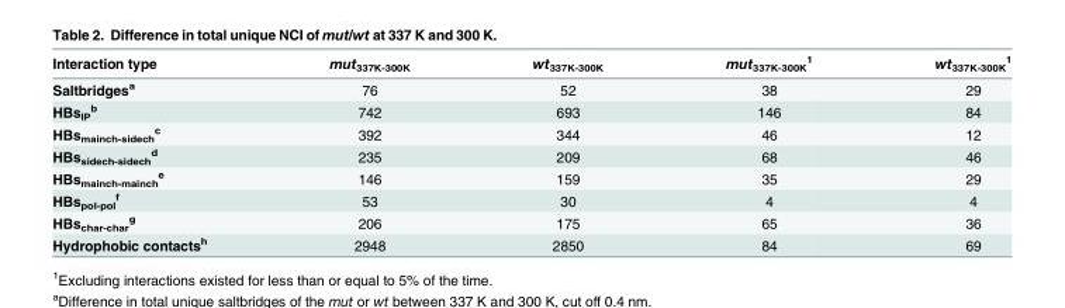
<table><thead><tr><td>Interaction type</td><td>mut<sub>337K-300K</sub></td><td>wt<sub>337K-300K</sub></td><td>mut<sub>337K-300K</sub> <sup>1</sup></td><td>wt<sub>337K-300K</sub> <sup>1</sup></td></tr></thead><tbody><tr><td>Saltbridges<sup>a</sup></td><td>76</td><td>52</td><td>38</td><td>29</td></tr><tr><td>HBs<sub>IP</sub> <sup>b</sup></td><td>742</td><td>693</td><td>146</td><td>84</td></tr><tr><td>HBs<sub>mainch-sidech</sub> <sup>c</sup></td><td>392</td><td>344</td><td>46</td><td>12</td></tr><tr><td>HBs<sub>sidech-sidech</sub> <sup>d</sup></td><td>235</td><td>209</td><td>68</td><td>46</td></tr><tr><td>HBs<sub>mainch-mainch</sub> <sup>e</sup></td><td>146</td><td>159</td><td>35</td><td>29</td></tr><tr><td>HBs<sub>pol-pol</sub> <sup>f</sup></td><td>53</td><td>30</td><td>4</td><td>4</td></tr><tr><td>HBs<sub>char-char</sub> <sup>g</sup></td><td>206</td><td>175</td><td>65</td><td>36</td></tr><tr><td>Hydrophobic contacts<sup>h</sup></td><td>2948</td><td>2850</td><td>84</td><td>69</td></tr></tbody></table>